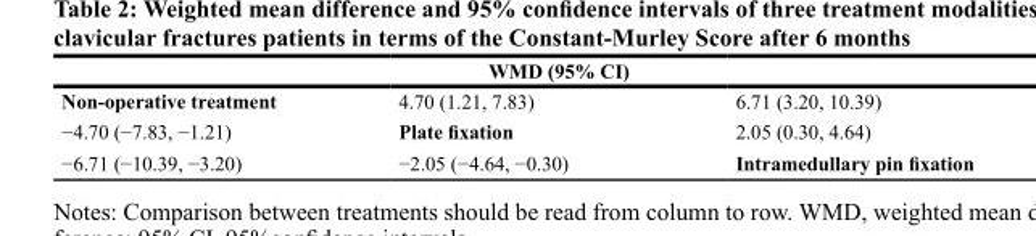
<table><thead><tr><td colspan="3">WMD (95% CI)</td></tr><tr><td>Non-operative treatment</td><td>4.70 (1.21, 7.83)</td><td>6.71 (3.20, 10.39)</td></tr></thead><tbody><tr><td>−4.70 (−7.83, −1.21)</td><td>Plate fixation</td><td>2.05 (0.30, 4.64)</td></tr><tr><td>−6.71 (−10.39, −3.20)</td><td>−2.05 (−4.64, −0.30)</td><td>Intramedullary pin fixation</td></tr></tbody></table>